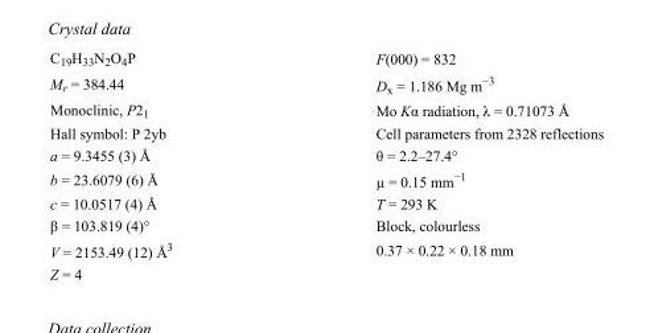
<table><tbody><tr><td>C<sub>19</sub>H<sub>33</sub>N<sub>2</sub>O<sub>4</sub>P</td><td>F(000) = 832</td></tr><tr><td>M<sub>r</sub> = 384.44</td><td>D<sub>x</sub> = 1.186 Mg m<sup>−3</sup></td></tr><tr><td>Monoclinic, P2<sub>1</sub></td><td>Mo Kα radiation, λ = 0.71073 Å</td></tr><tr><td>Hall symbol: P 2yb</td><td>Cell parameters from 2328 reflections</td></tr><tr><td>a = 9.3455 (3) Å</td><td>θ = 2.2–27.4°</td></tr><tr><td>b = 23.6079 (6) Å</td><td>µ = 0.15 mm<sup>−1</sup></td></tr><tr><td>c = 10.0517 (4) Å</td><td>T = 293 K</td></tr><tr><td>β = 103.819 (4)°</td><td>Block, colourless</td></tr><tr><td>V = 2153.49 (12) Å<sup>3</sup></td><td>0.37 × 0.22 × 0.18 mm</td></tr><tr><td>Z = 4</td><td></td></tr></tbody></table>